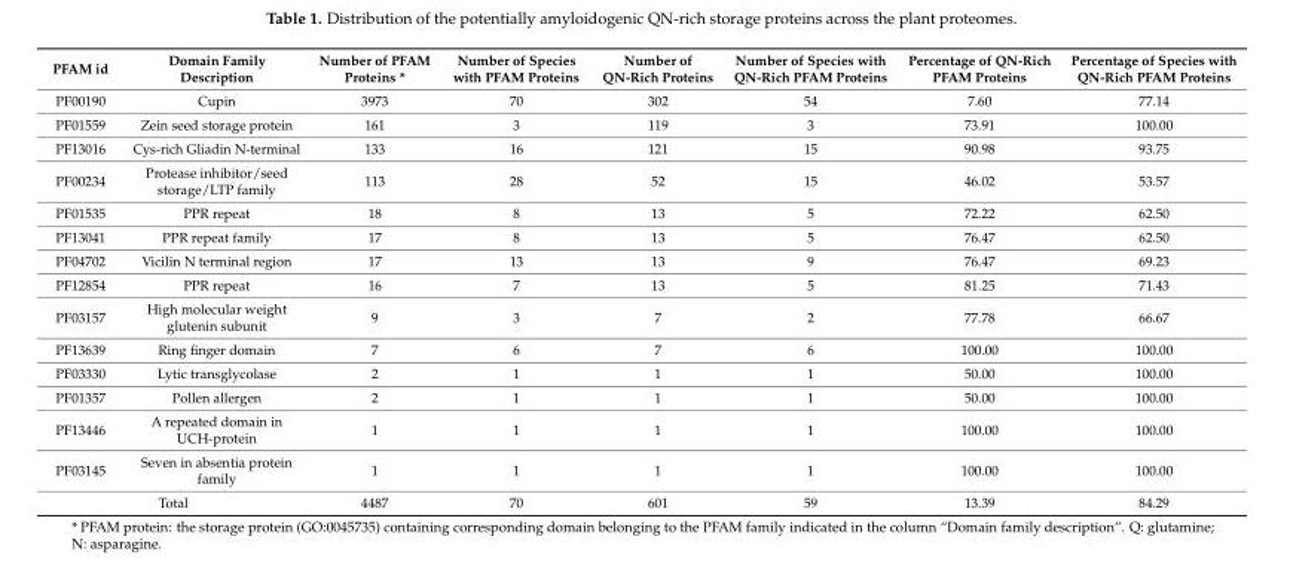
<table><thead><tr><td>PFAM id</td><td>Domain Family Description</td><td>Number of PFAM Proteins *</td><td>Number of Species with PFAM Proteins</td><td>Number of QN-Rich Proteins</td><td>Number of Species with QN-Rich PFAM Proteins</td><td>Percentage of QN-Rich PFAM Proteins</td><td>Percentage of Species with QN-Rich PFAM Proteins</td></tr></thead><tbody><tr><td>PF00190</td><td>Cupin</td><td>3973</td><td>70</td><td>302</td><td>54</td><td>7.60</td><td>77.14</td></tr><tr><td>PF01559</td><td>Zein seed storage protein</td><td>161</td><td>3</td><td>119</td><td>3</td><td>73.91</td><td>100.00</td></tr><tr><td>PF13016</td><td>Cys-rich Gliadin N-terminal</td><td>133</td><td>16</td><td>121</td><td>15</td><td>90.98</td><td>93.75</td></tr><tr><td>PF00234</td><td>Protease inhibitor/seed storage/LTP family</td><td>113</td><td>28</td><td>52</td><td>15</td><td>46.02</td><td>53.57</td></tr><tr><td>PF01535</td><td>PPR repeat</td><td>18</td><td>8</td><td>13</td><td>5</td><td>72.22</td><td>62.50</td></tr><tr><td>PF13041</td><td>PPR repeat family</td><td>17</td><td>8</td><td>13</td><td>5</td><td>76.47</td><td>62.50</td></tr><tr><td>PF04702</td><td>Vicilin N terminal region</td><td>17</td><td>13</td><td>13</td><td>9</td><td>76.47</td><td>69.23</td></tr><tr><td>PF12854</td><td>PPR repeat</td><td>16</td><td>7</td><td>13</td><td>5</td><td>81.25</td><td>71.43</td></tr><tr><td>PF03157</td><td>High molecular weight glutenin subunit</td><td>9</td><td>3</td><td>7</td><td>2</td><td>77.78</td><td>66.67</td></tr><tr><td>PF13639</td><td>Ring finger domain</td><td>7</td><td>6</td><td>7</td><td>6</td><td>100.00</td><td>100.00</td></tr><tr><td>PF03330</td><td>Lytic transglycolase</td><td>2</td><td>1</td><td>1</td><td>1</td><td>50.00</td><td>100.00</td></tr><tr><td>PF01357</td><td>Pollen allergen</td><td>2</td><td>1</td><td>1</td><td>1</td><td>50.00</td><td>100.00</td></tr><tr><td>PF13446</td><td>A repeated domain in UCH-protein</td><td>1</td><td>1</td><td>1</td><td>1</td><td>100.00</td><td>100.00</td></tr><tr><td>PF03145</td><td>Seven in absentia protein family</td><td>1</td><td>1</td><td>1</td><td>1</td><td>100.00</td><td>100.00</td></tr><tr><td colspan="2">Total</td><td>4487</td><td>70</td><td>601</td><td>59</td><td>13.39</td><td>84.29</td></tr></tbody></table>